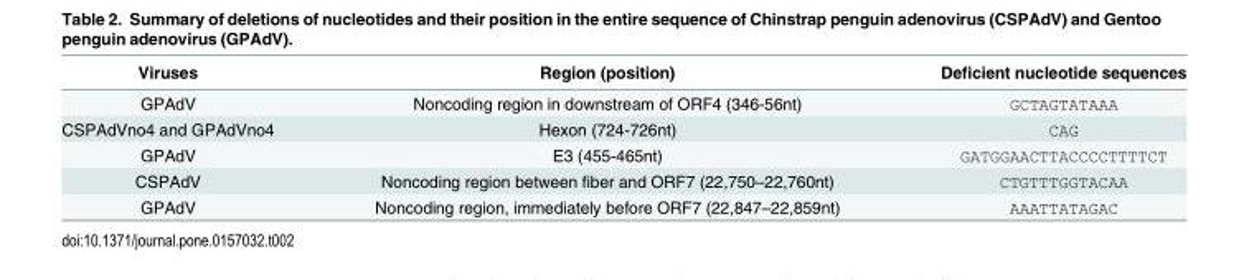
<table><thead><tr><td>Viruses</td><td>Region (position)</td><td>Deficient nucleotide sequences</td></tr></thead><tbody><tr><td>GPAdV</td><td>Noncoding region in downstream of ORF4 (346-56nt)</td><td>GCTAGTATAAA</td></tr><tr><td>CSPAdVno4 and GPAdVno4</td><td>Hexon (724-726nt)</td><td>CAG</td></tr><tr><td>GPAdV</td><td>E3 (455-465nt)</td><td>GATGGAACTTACCCCTTTTCT</td></tr><tr><td>CSPAdV</td><td>Noncoding region between fiber and ORF7 (22,750–22,760nt)</td><td>CTGTTTGGTACAA</td></tr><tr><td>GPAdV</td><td>Noncoding region, immediately before ORF7 (22,847–22,859nt)</td><td>AAATTATAGAC</td></tr></tbody></table>